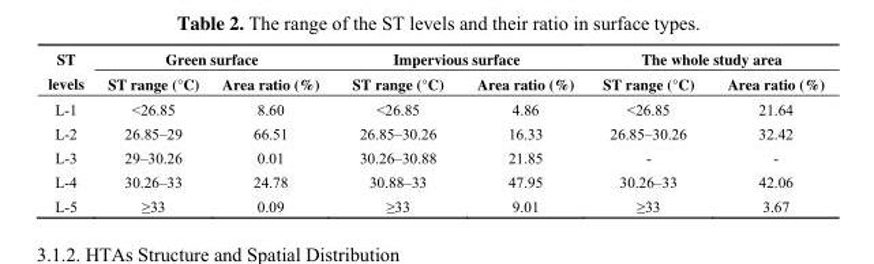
<table><thead><tr><td rowspan="2">ST levels</td><td colspan="2">Green surface</td><td colspan="2">Impervious surface</td><td colspan="2">The whole study area</td></tr><tr><td>ST range (°C)</td><td>Area ratio (%)</td><td>ST range (°C)</td><td>Area ratio (%)</td><td>ST range (°C)</td><td>Area ratio (%)</td></tr></thead><tbody><tr><td>L-1</td><td>&lt;26.85</td><td>8.60</td><td>&lt;26.85</td><td>4.86</td><td>&lt;26.85</td><td>21.64</td></tr><tr><td>L-2</td><td>26.85–29</td><td>66.51</td><td>26.85–30.26</td><td>16.33</td><td>26.85–30.26</td><td>32.42</td></tr><tr><td>L-3</td><td>29–30.26</td><td>0.01</td><td>30.26–30.88</td><td>21.85</td><td>-</td><td>-</td></tr><tr><td>L-4</td><td>30.26–33</td><td>24.78</td><td>30.88–33</td><td>47.95</td><td>30.26–33</td><td>42.06</td></tr><tr><td>L-5</td><td>≥33</td><td>0.09</td><td>≥33</td><td>9.01</td><td>≥33</td><td>3.67</td></tr></tbody></table>